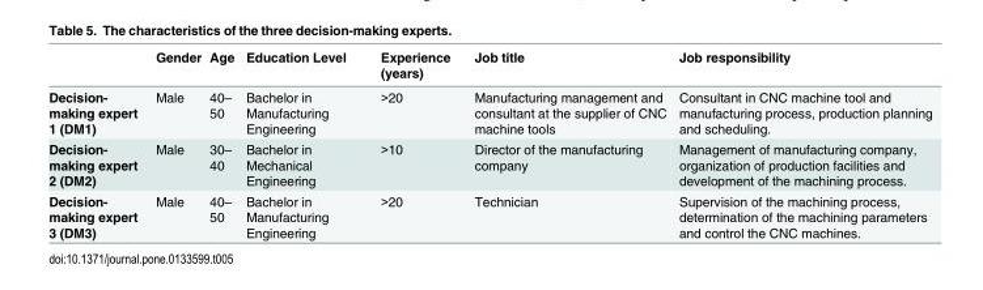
<table><thead><tr><td></td><td>Gender</td><td>Age</td><td>Education Level</td><td>Experience (years)</td><td>Job title</td><td>Job responsibility</td></tr></thead><tbody><tr><td>Decision- making expert 1 (DM1)</td><td>Male</td><td>40– 50</td><td>Bachelor in Manufacturing Engineering</td><td>&gt;20</td><td>Manufacturing management and consultant at the supplier of CNC machine tools</td><td>Consultant in CNC machine tool and manufacturing process, production planning and scheduling.</td></tr><tr><td>Decision- making expert 2 (DM2)</td><td>Male</td><td>30– 40</td><td>Bachelor in Mechanical Engineering</td><td>&gt;10</td><td>Director of the manufacturing company</td><td>Management of manufacturing company, organization of production facilities and development of the machining process.</td></tr><tr><td>Decision- making expert 3 (DM3)</td><td>Male</td><td>40– 50</td><td>Bachelor in Manufacturing Engineering</td><td>&gt;20</td><td>Technician</td><td>Supervision of the machining process, determination of the machining parameters and control the CNC machines.</td></tr></tbody></table>